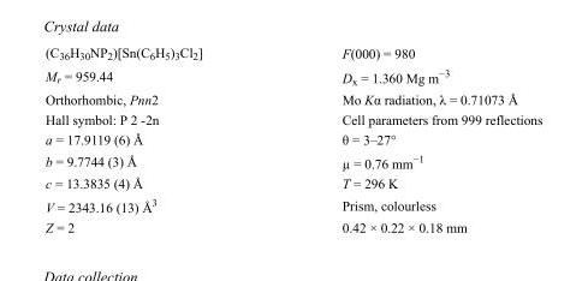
<table><tbody><tr><td>(C<sub>36</sub>H<sub>30</sub>NP<sub>2</sub>)[Sn(C<sub>6</sub>H<sub>5</sub>)<sub>3</sub>Cl<sub>2</sub>]</td><td>F(000) = 980</td></tr><tr><td>M<sub>r</sub> = 959.44</td><td>D<sub>x</sub> = 1.360 Mg m<sup>−3</sup></td></tr><tr><td>Orthorhombic, Pnn2</td><td>Mo Kα radiation, λ = 0.71073 Å</td></tr><tr><td>Hall symbol: P 2 -2n</td><td>Cell parameters from 999 reflections</td></tr><tr><td>a = 17.9119 (6) Å</td><td>θ = 3–27°</td></tr><tr><td>b = 9.7744 (3) Å</td><td>µ = 0.76 mm<sup>−1</sup></td></tr><tr><td>c = 13.3835 (4) Å</td><td>T = 296 K</td></tr><tr><td>V = 2343.16 (13) Å<sup>3</sup></td><td>Prism, colourless</td></tr><tr><td>Z = 2</td><td>0.42 × 0.22 × 0.18 mm</td></tr></tbody></table>